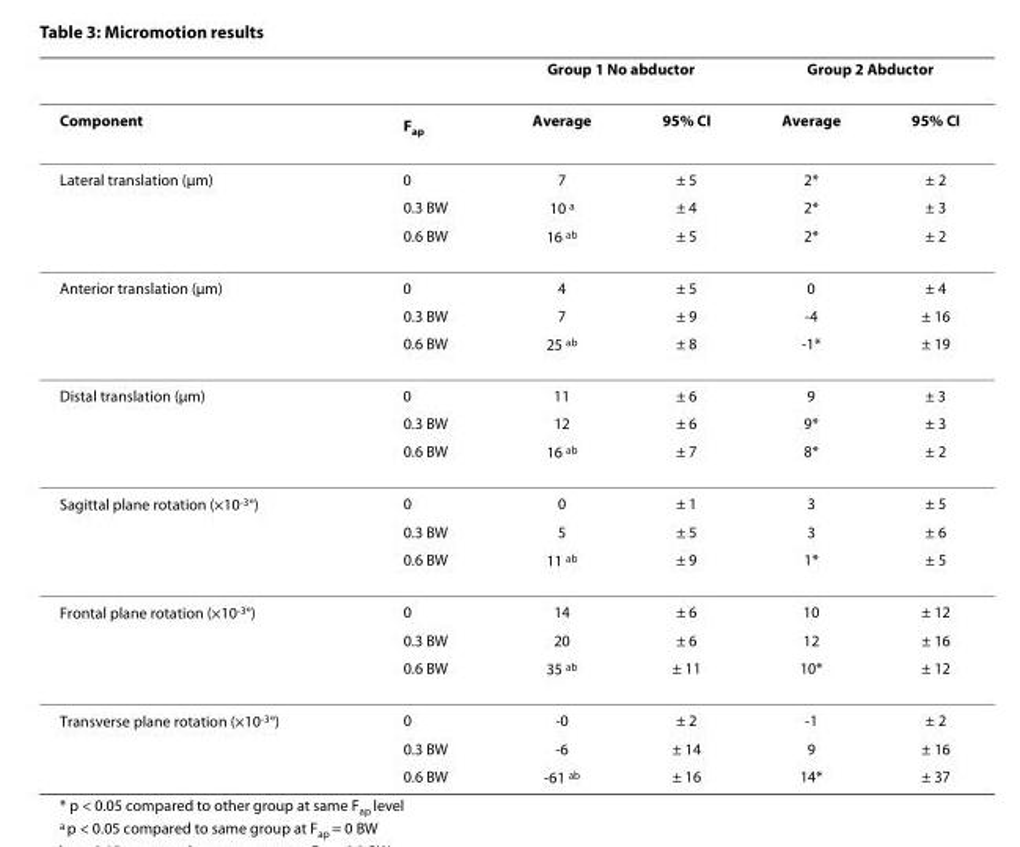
<table><thead><tr><td rowspan="2">Component</td><td rowspan="2">F<sub>ap</sub></td><td colspan="2">Group 1 No abductor</td><td colspan="2">Group 2 Abductor</td></tr><tr><td>Average</td><td>95% CI</td><td>Average</td><td>95% CI</td></tr></thead><tbody><tr><td rowspan="3">Lateral translation (μm)</td><td>0</td><td>7</td><td>± 5</td><td>2*</td><td>± 2</td></tr><tr><td>0.3 BW</td><td>10 <sup>a</sup></td><td>± 4</td><td>2*</td><td>± 3</td></tr><tr><td>0.6 BW</td><td>16 <sup>ab</sup></td><td>± 5</td><td>2*</td><td>± 2</td></tr><tr><td rowspan="3">Anterior translation (μm)</td><td>0</td><td>4</td><td>± 5</td><td>0</td><td>± 4</td></tr><tr><td>0.3 BW</td><td>7</td><td>± 9</td><td>-4</td><td>± 16</td></tr><tr><td>0.6 BW</td><td>25 <sup>ab</sup></td><td>± 8</td><td>-1*</td><td>± 19</td></tr><tr><td rowspan="3">Distal translation (μm)</td><td>0</td><td>11</td><td>± 6</td><td>9</td><td>± 3</td></tr><tr><td>0.3 BW</td><td>12</td><td>± 6</td><td>9*</td><td>± 3</td></tr><tr><td>0.6 BW</td><td>16 <sup>ab</sup></td><td>± 7</td><td>8*</td><td>± 2</td></tr><tr><td rowspan="3">Sagittal plane rotation (×10<sup>-3</sup>°)</td><td>0</td><td>0</td><td>± 1</td><td>3</td><td>± 5</td></tr><tr><td>0.3 BW</td><td>5</td><td>± 5</td><td>3</td><td>± 6</td></tr><tr><td>0.6 BW</td><td>11 <sup>ab</sup></td><td>± 9</td><td>1*</td><td>± 5</td></tr><tr><td rowspan="3">Frontal plane rotation (×10<sup>-3</sup>°)</td><td>0</td><td>14</td><td>± 6</td><td>10</td><td>± 12</td></tr><tr><td>0.3 BW</td><td>20</td><td>± 6</td><td>12</td><td>± 16</td></tr><tr><td>0.6 BW</td><td>35 <sup>ab</sup></td><td>± 11</td><td>10*</td><td>± 12</td></tr><tr><td rowspan="3">Transverse plane rotation (×10<sup>-3</sup>°)</td><td>0</td><td>-0</td><td>± 2</td><td>-1</td><td>± 2</td></tr><tr><td>0.3 BW</td><td>-6</td><td>± 14</td><td>9</td><td>± 16</td></tr><tr><td>0.6 BW</td><td>-61 <sup>ab</sup></td><td>± 16</td><td>14*</td><td>± 37</td></tr></tbody></table>